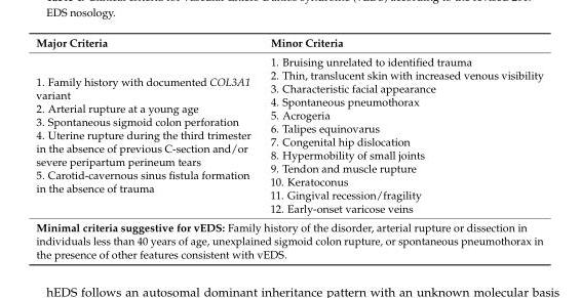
<table><thead><tr><td>Major Criteria</td><td>Minor Criteria</td></tr></thead><tbody><tr><td>1. Family history with documented COL3A1 variant 2. Arterial rupture at a young age 3. Spontaneous sigmoid colon perforation 4. Uterine rupture during the third trimester in the absence of previous C-section and/or severe peripartum perineum tears 5. Carotid-cavernous sinus fistula formation in the absence of trauma</td><td>1. Bruising unrelated to identified trauma 2. Thin, translucent skin with increased venous visibility 3. Characteristic facial appearance 4. Spontaneous pneumothorax 5. Acrogeria 6. Talipes equinovarus 7. Congenital hip dislocation 8. Hypermobility of small joints 9. Tendon and muscle rupture 10. Keratoconus 11. Gingival recession/fragility 12. Early-onset varicose veins</td></tr><tr><td colspan="2">Minimal criteria suggestive for vEDS: Family history of the disorder, arterial rupture or dissection in individuals less than 40 years of age, unexplained sigmoid colon rupture, or spontaneous pneumothorax in the presence of other features consistent with vEDS.</td></tr></tbody></table>